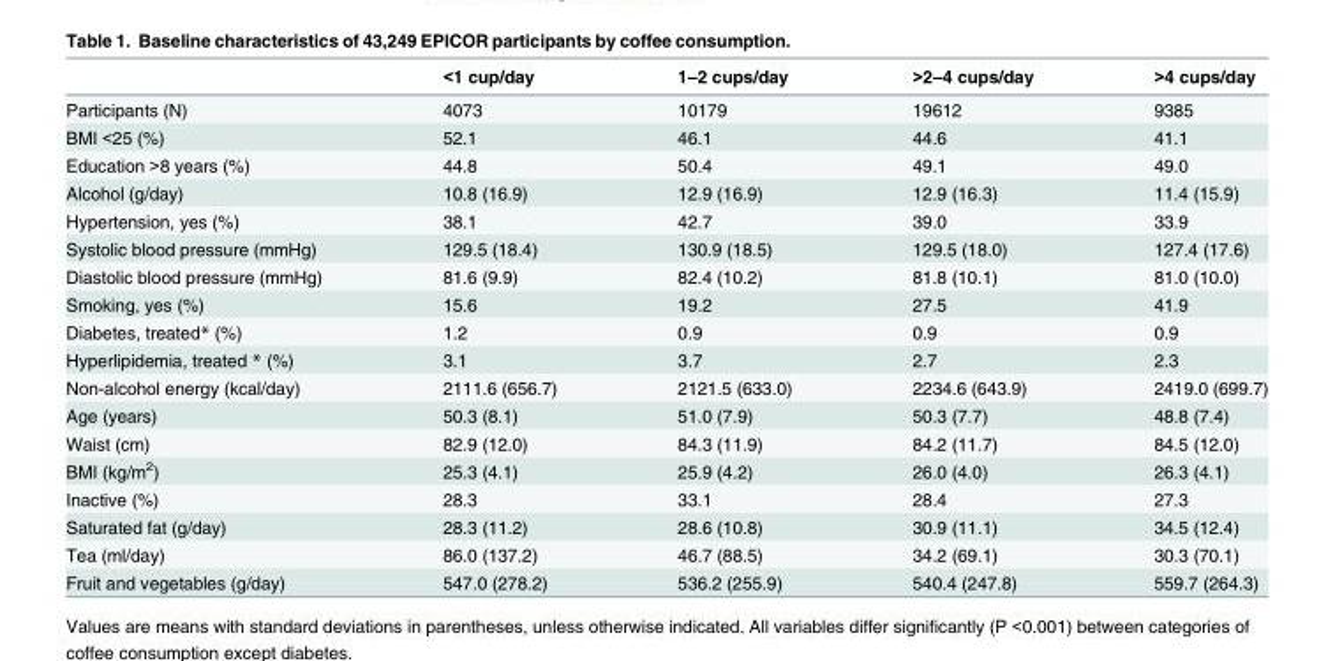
<table><thead><tr><td></td><td>&lt;1 cup/day</td><td>1–2 cups/day</td><td>&gt;2–4 cups/day</td><td>&gt;4 cups/day</td></tr></thead><tbody><tr><td>Participants (N)</td><td>4073</td><td>10179</td><td>19612</td><td>9385</td></tr><tr><td>BMI &lt;25 (%)</td><td>52.1</td><td>46.1</td><td>44.6</td><td>41.1</td></tr><tr><td>Education &gt;8 years (%)</td><td>44.8</td><td>50.4</td><td>49.1</td><td>49.0</td></tr><tr><td>Alcohol (g/day)</td><td>10.8 (16.9)</td><td>12.9 (16.9)</td><td>12.9 (16.3)</td><td>11.4 (15.9)</td></tr><tr><td>Hypertension, yes (%)</td><td>38.1</td><td>42.7</td><td>39.0</td><td>33.9</td></tr><tr><td>Systolic blood pressure (mmHg)</td><td>129.5 (18.4)</td><td>130.9 (18.5)</td><td>129.5 (18.0)</td><td>127.4 (17.6)</td></tr><tr><td>Diastolic blood pressure (mmHg)</td><td>81.6 (9.9)</td><td>82.4 (10.2)</td><td>81.8 (10.1)</td><td>81.0 (10.0)</td></tr><tr><td>Smoking, yes (%)</td><td>15.6</td><td>19.2</td><td>27.5</td><td>41.9</td></tr><tr><td>Diabetes, treated* (%)</td><td>1.2</td><td>0.9</td><td>0.9</td><td>0.9</td></tr><tr><td>Hyperlipidemia, treated * (%)</td><td>3.1</td><td>3.7</td><td>2.7</td><td>2.3</td></tr><tr><td>Non-alcohol energy (kcal/day)</td><td>2111.6 (656.7)</td><td>2121.5 (633.0)</td><td>2234.6 (643.9)</td><td>2419.0 (699.7)</td></tr><tr><td>Age (years)</td><td>50.3 (8.1)</td><td>51.0 (7.9)</td><td>50.3 (7.7)</td><td>48.8 (7.4)</td></tr><tr><td>Waist (cm)</td><td>82.9 (12.0)</td><td>84.3 (11.9)</td><td>84.2 (11.7)</td><td>84.5 (12.0)</td></tr><tr><td>BMI (kg/m<sup>2</sup>)</td><td>25.3 (4.1)</td><td>25.9 (4.2)</td><td>26.0 (4.0)</td><td>26.3 (4.1)</td></tr><tr><td>Inactive (%)</td><td>28.3</td><td>33.1</td><td>28.4</td><td>27.3</td></tr><tr><td>Saturated fat (g/day)</td><td>28.3 (11.2)</td><td>28.6 (10.8)</td><td>30.9 (11.1)</td><td>34.5 (12.4)</td></tr><tr><td>Tea (ml/day)</td><td>86.0 (137.2)</td><td>46.7 (88.5)</td><td>34.2 (69.1)</td><td>30.3 (70.1)</td></tr><tr><td>Fruit and vegetables (g/day)</td><td>547.0 (278.2)</td><td>536.2 (255.9)</td><td>540.4 (247.8)</td><td>559.7 (264.3)</td></tr></tbody></table>